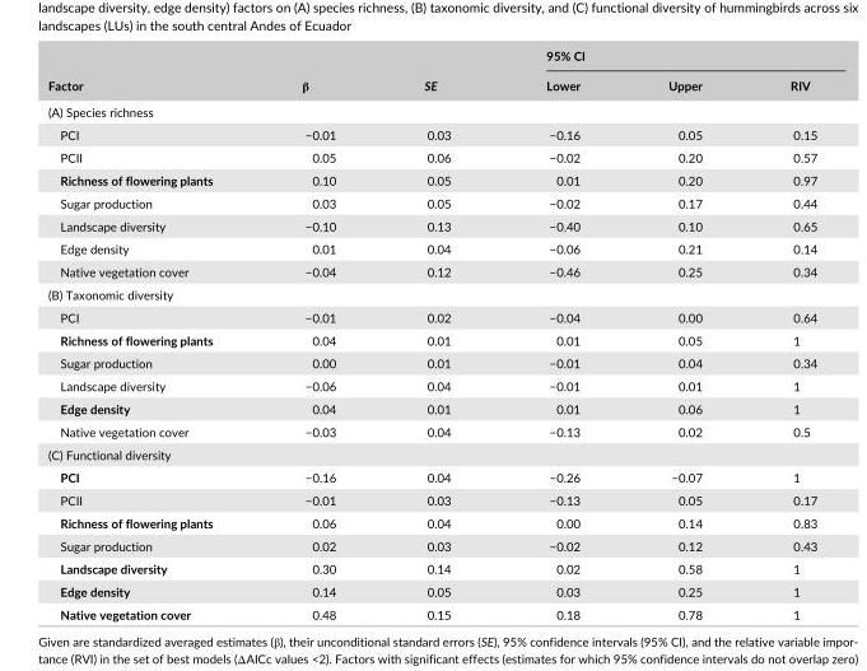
<table><thead><tr><td rowspan="2">Factor</td><td rowspan="2">β</td><td rowspan="2">SE</td><td colspan="3">95% CI</td></tr><tr><td>Lower</td><td>Upper</td><td>RIV</td></tr></thead><tbody><tr><td colspan="6">(A) Species richness</td></tr><tr><td>PCI</td><td>−0.01</td><td>0.03</td><td>−0.16</td><td>0.05</td><td>0.15</td></tr><tr><td>PCII</td><td>0.05</td><td>0.06</td><td>−0.02</td><td>0.20</td><td>0.57</td></tr><tr><td>Richness of flowering plants</td><td>0.10</td><td>0.05</td><td>0.01</td><td>0.20</td><td>0.97</td></tr><tr><td>Sugar production</td><td>0.03</td><td>0.05</td><td>−0.02</td><td>0.17</td><td>0.44</td></tr><tr><td>Landscape diversity</td><td>−0.10</td><td>0.13</td><td>−0.40</td><td>0.10</td><td>0.65</td></tr><tr><td>Edge density</td><td>0.01</td><td>0.04</td><td>−0.06</td><td>0.21</td><td>0.14</td></tr><tr><td>Native vegetation cover</td><td>−0.04</td><td>0.12</td><td>−0.46</td><td>0.25</td><td>0.34</td></tr><tr><td colspan="6">(B) Taxonomic diversity</td></tr><tr><td>PCI</td><td>−0.01</td><td>0.02</td><td>−0.04</td><td>0.00</td><td>0.64</td></tr><tr><td>Richness of flowering plants</td><td>0.04</td><td>0.01</td><td>0.01</td><td>0.05</td><td>1</td></tr><tr><td>Sugar production</td><td>0.00</td><td>0.01</td><td>−0.01</td><td>0.04</td><td>0.34</td></tr><tr><td>Landscape diversity</td><td>−0.06</td><td>0.04</td><td>−0.01</td><td>0.01</td><td>1</td></tr><tr><td>Edge density</td><td>0.04</td><td>0.01</td><td>0.01</td><td>0.06</td><td>1</td></tr><tr><td>Native vegetation cover</td><td>−0.03</td><td>0.04</td><td>−0.13</td><td>0.02</td><td>0.5</td></tr><tr><td colspan="6">(C) Functional diversity</td></tr><tr><td>PCI</td><td>−0.16</td><td>0.04</td><td>−0.26</td><td>−0.07</td><td>1</td></tr><tr><td>PCII</td><td>−0.01</td><td>0.03</td><td>−0.13</td><td>0.05</td><td>0.17</td></tr><tr><td>Richness of flowering plants</td><td>0.06</td><td>0.04</td><td>0.00</td><td>0.14</td><td>0.83</td></tr><tr><td>Sugar production</td><td>0.02</td><td>0.03</td><td>−0.02</td><td>0.12</td><td>0.43</td></tr><tr><td>Landscape diversity</td><td>0.30</td><td>0.14</td><td>0.02</td><td>0.58</td><td>1</td></tr><tr><td>Edge density</td><td>0.14</td><td>0.05</td><td>0.03</td><td>0.25</td><td>1</td></tr><tr><td>Native vegetation cover</td><td>0.48</td><td>0.15</td><td>0.18</td><td>0.78</td><td>1</td></tr></tbody></table>